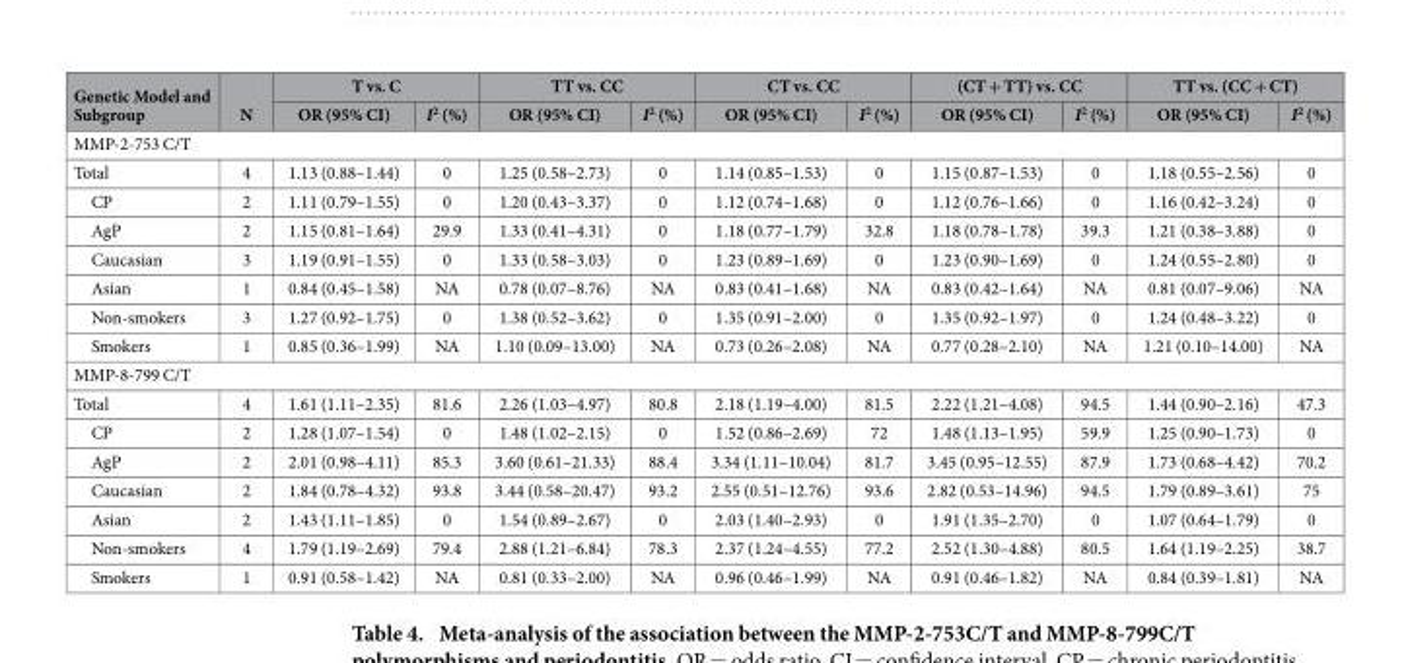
<table><thead><tr><td rowspan="2">Genetic Model and Subgroup</td><td rowspan="2">N</td><td colspan="2">T vs. C</td><td colspan="2">TT vs. CC</td><td colspan="2">CT vs. CC</td><td colspan="2">(CT + TT) vs. CC</td><td colspan="2">TT vs. (CC + CT)</td></tr><tr><td>OR (95% CI)</td><td>I<sup>2</sup> (%)</td><td>OR (95% CI)</td><td>I<sup>2</sup> (%)</td><td>OR (95% CI)</td><td>I<sup>2</sup> (%)</td><td>OR (95% CI)</td><td>I<sup>2</sup> (%)</td><td>OR (95% CI)</td><td>I<sup>2</sup> (%)</td></tr></thead><tbody><tr><td colspan="12">MMP-2-753 C/T</td></tr><tr><td>Total</td><td>4</td><td>1.13 (0.88–1.44)</td><td>0</td><td>1.25 (0.58–2.73)</td><td>0</td><td>1.14 (0.85–1.53)</td><td>0</td><td>1.15 (0.87–1.53)</td><td>0</td><td>1.18 (0.55–2.56)</td><td>0</td></tr><tr><td>CP</td><td>2</td><td>1.11 (0.79–1.55)</td><td>0</td><td>1.20 (0.43–3.37)</td><td>0</td><td>1.12 (0.74–1.68)</td><td>0</td><td>1.12 (0.76–1.66)</td><td>0</td><td>1.16 (0.42–3.24)</td><td>0</td></tr><tr><td>AgP</td><td>2</td><td>1.15 (0.81–1.64)</td><td>29.9</td><td>1.33 (0.41–4.31)</td><td>0</td><td>1.18 (0.77–1.79)</td><td>32.8</td><td>1.18 (0.78–1.78)</td><td>39.3</td><td>1.21 (0.38–3.88)</td><td>0</td></tr><tr><td>Caucasian</td><td>3</td><td>1.19 (0.91–1.55)</td><td>0</td><td>1.33 (0.58–3.03)</td><td>0</td><td>1.23 (0.89–1.69)</td><td>0</td><td>1.23 (0.90–1.69)</td><td>0</td><td>1.24 (0.55–2.80)</td><td>0</td></tr><tr><td>Asian</td><td>1</td><td>0.84 (0.45–1.58)</td><td>NA</td><td>0.78 (0.07–8.76)</td><td>NA</td><td>0.83 (0.41–1.68)</td><td>NA</td><td>0.83 (0.42–1.64)</td><td>NA</td><td>0.81 (0.07–9.06)</td><td>NA</td></tr><tr><td>Non-smokers</td><td>3</td><td>1.27 (0.92–1.75)</td><td>0</td><td>1.38 (0.52–3.62)</td><td>0</td><td>1.35 (0.91–2.00)</td><td>0</td><td>1.35 (0.92–1.97)</td><td>0</td><td>1.24 (0.48–3.22)</td><td>0</td></tr><tr><td>Smokers</td><td>1</td><td>0.85 (0.36–1.99)</td><td>NA</td><td>1.10 (0.09–13.00)</td><td>NA</td><td>0.73 (0.26–2.08)</td><td>NA</td><td>0.77 (0.28–2.10)</td><td>NA</td><td>1.21 (0.10–14.00)</td><td>NA</td></tr><tr><td colspan="12">MMP-8-799 C/T</td></tr><tr><td>Total</td><td>4</td><td>1.61 (1.11–2.35)</td><td>81.6</td><td>2.26 (1.03–4.97)</td><td>80.8</td><td>2.18 (1.19–4.00)</td><td>81.5</td><td>2.22 (1.21–4.08)</td><td>94.5</td><td>1.44 (0.90–2.16)</td><td>47.3</td></tr><tr><td>CP</td><td>2</td><td>1.28 (1.07–1.54)</td><td>0</td><td>1.48 (1.02–2.15)</td><td>0</td><td>1.52 (0.86–2.69)</td><td>72</td><td>1.48 (1.13–1.95)</td><td>59.9</td><td>1.25 (0.90–1.73)</td><td>0</td></tr><tr><td>AgP</td><td>2</td><td>2.01 (0.98–4.11)</td><td>85.3</td><td>3.60 (0.61–21.33)</td><td>88.4</td><td>3.34 (1.11–10.04)</td><td>81.7</td><td>3.45 (0.95–12.55)</td><td>87.9</td><td>1.73 (0.68–4.42)</td><td>70.2</td></tr><tr><td>Caucasian</td><td>2</td><td>1.84 (0.78–4.32)</td><td>93.8</td><td>3.44 (0.58–20.47)</td><td>93.2</td><td>2.55 (0.51–12.76)</td><td>93.6</td><td>2.82 (0.53–14.96)</td><td>94.5</td><td>1.79 (0.89–3.61)</td><td>75</td></tr><tr><td>Asian</td><td>2</td><td>1.43 (1.11–1.85)</td><td>0</td><td>1.54 (0.89–2.67)</td><td>0</td><td>2.03 (1.40–2.93)</td><td>0</td><td>1.91 (1.35–2.70)</td><td>0</td><td>1.07 (0.64–1.79)</td><td>0</td></tr><tr><td>Non-smokers</td><td>4</td><td>1.79 (1.19–2.69)</td><td>79.4</td><td>2.88 (1.21–6.84)</td><td>78.3</td><td>2.37 (1.24–4.55)</td><td>77.2</td><td>2.52 (1.30–4.88)</td><td>80.5</td><td>1.64 (1.19–2.25)</td><td>38.7</td></tr><tr><td>Smokers</td><td>1</td><td>0.91 (0.58–1.42)</td><td>NA</td><td>0.81 (0.33–2.00)</td><td>NA</td><td>0.96 (0.46–1.99)</td><td>NA</td><td>0.91 (0.46–1.82)</td><td>NA</td><td>0.84 (0.39–1.81)</td><td>NA</td></tr></tbody></table>